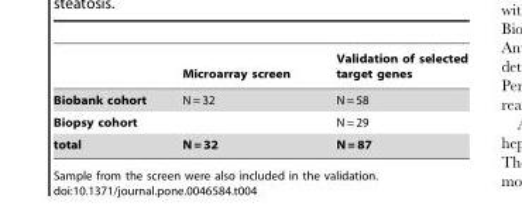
<table><thead><tr><td></td><td>Microarray screen</td><td>Validation of selected target genes</td></tr></thead><tbody><tr><td>Biobank cohort</td><td>N = 32</td><td>N = 58</td></tr><tr><td>Biopsy cohort</td><td></td><td>N = 29</td></tr><tr><td>total</td><td>N = 32</td><td>N = 87</td></tr></tbody></table>